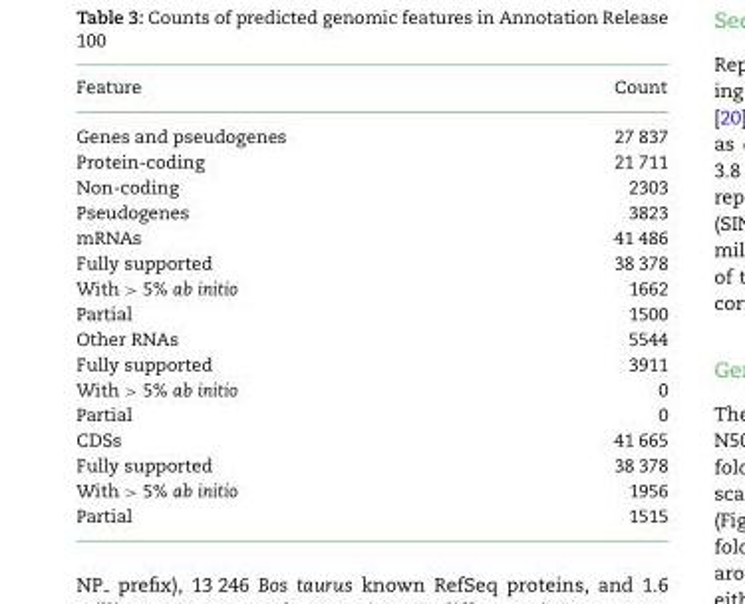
<table><thead><tr><td>Feature</td><td>Count</td></tr></thead><tbody><tr><td>Genes and pseudogenes</td><td>27 837</td></tr><tr><td>Protein-coding</td><td>21 711</td></tr><tr><td>Non-coding</td><td>2303</td></tr><tr><td>Pseudogenes</td><td>3823</td></tr><tr><td>mRNAs</td><td>41 486</td></tr><tr><td>Fully supported</td><td>38 378</td></tr><tr><td>With &gt; 5% ab initio</td><td>1662</td></tr><tr><td>Partial</td><td>1500</td></tr><tr><td>Other RNAs</td><td>5544</td></tr><tr><td>Fully supported</td><td>3911</td></tr><tr><td>With &gt; 5% ab initio</td><td>0</td></tr><tr><td>Partial</td><td>0</td></tr><tr><td>CDSs</td><td>41 665</td></tr><tr><td>Fully supported</td><td>38 378</td></tr><tr><td>With &gt; 5% ab initio</td><td>1956</td></tr><tr><td>Partial</td><td>1515</td></tr></tbody></table>